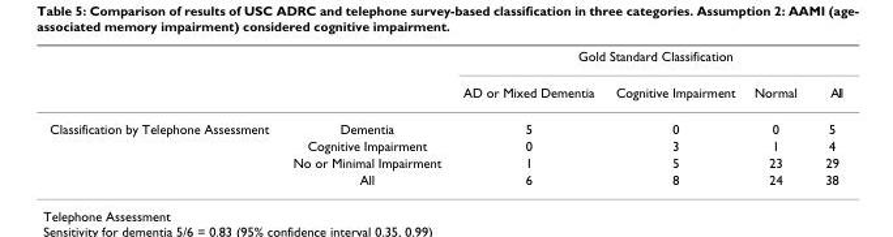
<table><thead><tr><td rowspan="2"></td><td rowspan="2"></td><td colspan="4">Gold Standard Classification</td></tr><tr><td>AD or Mixed Dementia</td><td>Cognitive Impairment</td><td>Normal</td><td>All</td></tr></thead><tbody><tr><td rowspan="4">Classification by Telephone Assessment</td><td>Dementia</td><td>5</td><td>0</td><td>0</td><td>5</td></tr><tr><td>Cognitive Impairment</td><td>0</td><td>3</td><td>1</td><td>4</td></tr><tr><td>No or Minimal Impairment</td><td>1</td><td>5</td><td>23</td><td>29</td></tr><tr><td>All</td><td>6</td><td>8</td><td>24</td><td>38</td></tr></tbody></table>